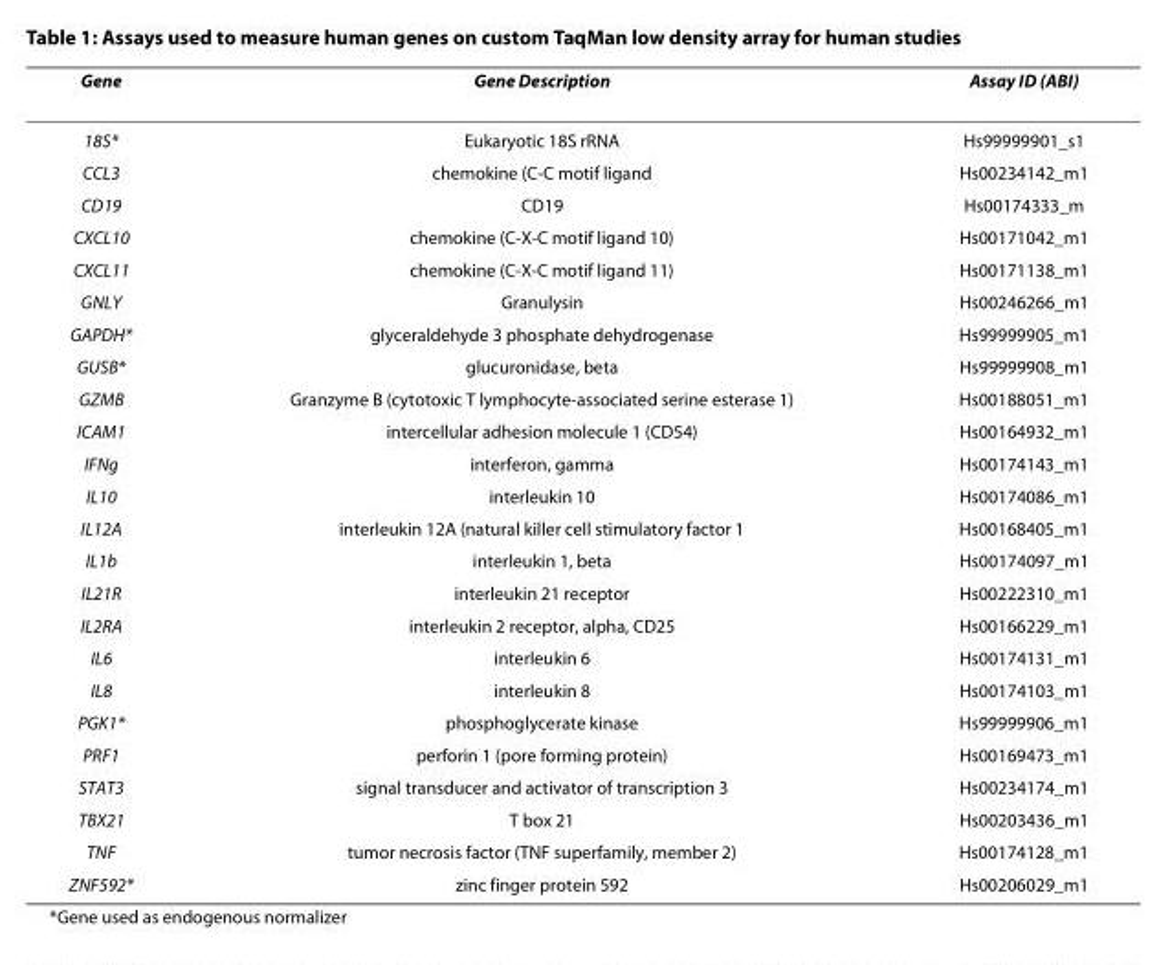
<table><thead><tr><td>Gene</td><td>Gene Description</td><td>Assay ID (ABI)</td></tr></thead><tbody><tr><td>18S*</td><td>Eukaryotic 18S rRNA</td><td>Hs99999901_s1</td></tr><tr><td>CCL3</td><td>chemokine (C-C motif ligand</td><td>Hs00234142_m1</td></tr><tr><td>CD19</td><td>CD19</td><td>Hs00174333_m</td></tr><tr><td>CXCL10</td><td>chemokine (C-X-C motif ligand 10)</td><td>Hs00171042_m1</td></tr><tr><td>CXCL11</td><td>chemokine (C-X-C motif ligand 11)</td><td>Hs00171138_m1</td></tr><tr><td>GNLY</td><td>Granulysin</td><td>Hs00246266_m1</td></tr><tr><td>GAPDH*</td><td>glyceraldehyde 3 phosphate dehydrogenase</td><td>Hs99999905_m1</td></tr><tr><td>GUSB*</td><td>glucuronidase, beta</td><td>Hs99999908_m1</td></tr><tr><td>GZMB</td><td>Granzyme B (cytotoxic T lymphocyte-associated serine esterase 1)</td><td>Hs00188051_m1</td></tr><tr><td>ICAM1</td><td>intercellular adhesion molecule 1 (CD54)</td><td>Hs00164932_m1</td></tr><tr><td>IFNg</td><td>interferon, gamma</td><td>Hs00174143_m1</td></tr><tr><td>IL10</td><td>interleukin 10</td><td>Hs00174086_m1</td></tr><tr><td>IL12A</td><td>interleukin 12A (natural killer cell stimulatory factor 1</td><td>Hs00168405_m1</td></tr><tr><td>IL1b</td><td>interleukin 1, beta</td><td>Hs00174097_m1</td></tr><tr><td>IL21R</td><td>interleukin 21 receptor</td><td>Hs00222310_m1</td></tr><tr><td>IL2RA</td><td>interleukin 2 receptor, alpha, CD25</td><td>Hs00166229_m1</td></tr><tr><td>IL6</td><td>interleukin 6</td><td>Hs00174131_m1</td></tr><tr><td>IL8</td><td>interleukin 8</td><td>Hs00174103_m1</td></tr><tr><td>PGK1*</td><td>phosphoglycerate kinase</td><td>Hs99999906_m1</td></tr><tr><td>PRF1</td><td>perforin 1 (pore forming protein)</td><td>Hs00169473_m1</td></tr><tr><td>STAT3</td><td>signal transducer and activator of transcription 3</td><td>Hs00234174_m1</td></tr><tr><td>TBX21</td><td>T box 21</td><td>Hs00203436_m1</td></tr><tr><td>TNF</td><td>tumor necrosis factor (TNF superfamily, member 2)</td><td>Hs00174128_m1</td></tr><tr><td>ZNF592*</td><td>zinc finger protein 592</td><td>Hs00206029_m1</td></tr></tbody></table>